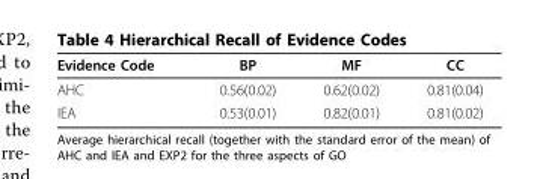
<table><thead><tr><td>Evidence Code</td><td>BP</td><td>MF</td><td>CC</td></tr></thead><tbody><tr><td>AHC</td><td>0.56(0.02)</td><td>0.62(0.02)</td><td>0.81(0.04)</td></tr><tr><td>IEA</td><td>0.53(0.01)</td><td>0.82(0.01)</td><td>0.81(0.02)</td></tr></tbody></table>